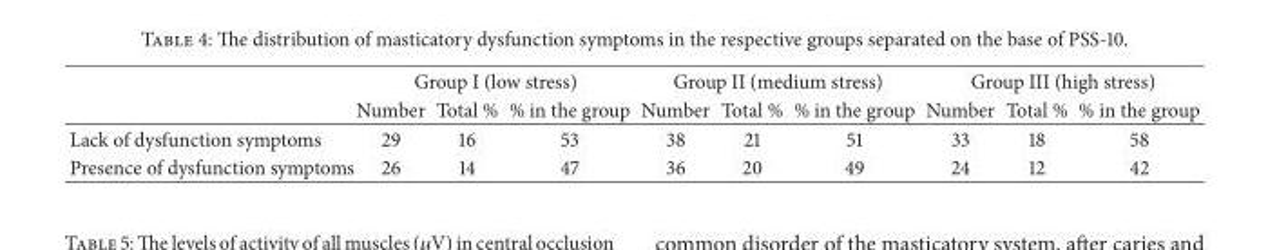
<table><thead><tr><td rowspan="2"></td><td colspan="3">Group I (low stress)</td><td colspan="3">Group II (medium stress)</td><td colspan="3">Group III (high stress)</td></tr><tr><td>Number</td><td>Total %</td><td>% in the group</td><td>Number</td><td>Total %</td><td>% in the group</td><td>Number</td><td>Total %</td><td>% in the group</td></tr></thead><tbody><tr><td>Lack of dysfunction symptoms</td><td>29</td><td>16</td><td>53</td><td>38</td><td>21</td><td>51</td><td>33</td><td>18</td><td>58</td></tr><tr><td>Presence of dysfunction symptoms</td><td>26</td><td>14</td><td>47</td><td>36</td><td>20</td><td>49</td><td>24</td><td>12</td><td>42</td></tr></tbody></table>